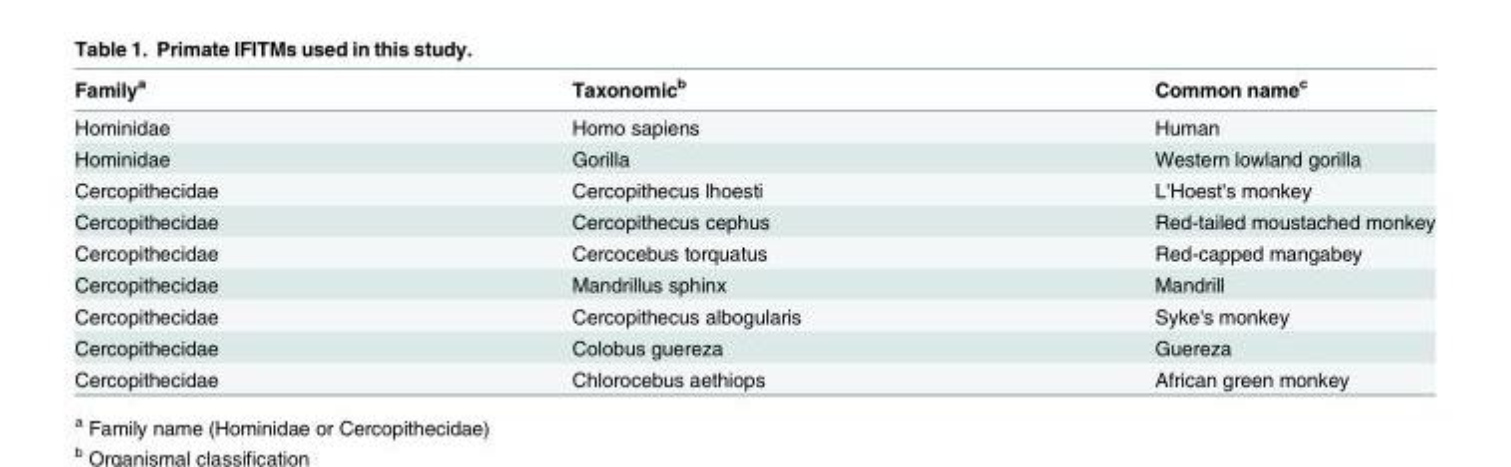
<table><thead><tr><td>Family<sup>a</sup></td><td>Taxonomic<sup>b</sup></td><td>Common name<sup>c</sup></td></tr></thead><tbody><tr><td>Hominidae</td><td>Homo sapiens</td><td>Human</td></tr><tr><td>Hominidae</td><td>Gorilla</td><td>Western lowland gorilla</td></tr><tr><td>Cercopithecidae</td><td>Cercopithecus lhoesti</td><td>L&#x27;Hoest&#x27;s monkey</td></tr><tr><td>Cercopithecidae</td><td>Cercopithecus cephus</td><td>Red-tailed moustached monkey</td></tr><tr><td>Cercopithecidae</td><td>Cercocebus torquatus</td><td>Red-capped mangabey</td></tr><tr><td>Cercopithecidae</td><td>Mandrillus sphinx</td><td>Mandrill</td></tr><tr><td>Cercopithecidae</td><td>Cercopithecus albogularis</td><td>Syke&#x27;s monkey</td></tr><tr><td>Cercopithecidae</td><td>Colobus guereza</td><td>Guereza</td></tr><tr><td>Cercopithecidae</td><td>Chlorocebus aethiops</td><td>African green monkey</td></tr></tbody></table>